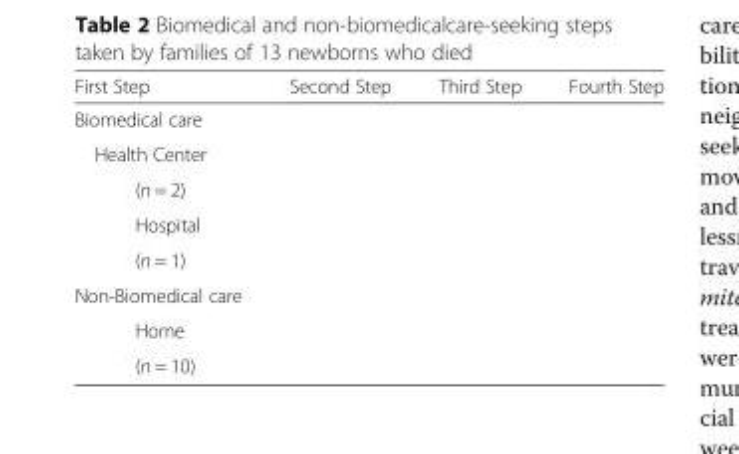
<table><thead><tr><td>First Step</td><td>Second Step</td><td>Third Step</td><td>Fourth Step</td></tr></thead><tbody><tr><td colspan="4">Biomedical care</td></tr><tr><td colspan="4">Health Center</td></tr><tr><td colspan="4">(n = 2)</td></tr><tr><td colspan="4">Hospital</td></tr><tr><td colspan="4">(n = 1)</td></tr><tr><td colspan="4">Non-Biomedical care</td></tr><tr><td colspan="4">Home</td></tr><tr><td>(n = 10)</td><td></td><td></td><td></td></tr></tbody></table>